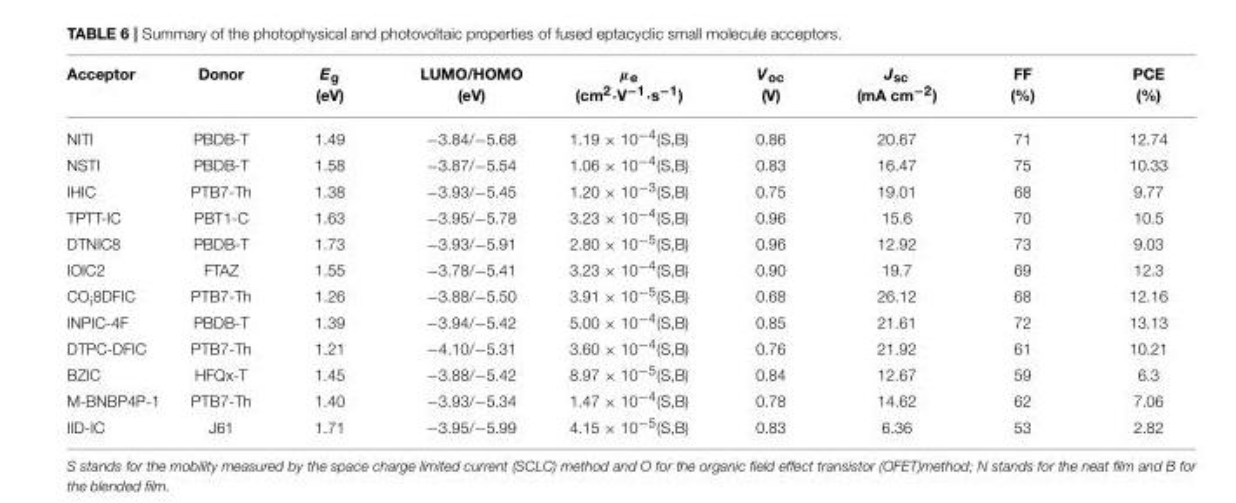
<table><thead><tr><td>Acceptor</td><td>Donor</td><td>E<sub>g</sub> (eV)</td><td>LUMO/HOMO (eV)</td><td>µ<sub>e</sub> (cm<sup>2</sup>·V<sup>−1</sup>·s<sup>−1</sup>)</td><td>V<sub>oc</sub> (V)</td><td>J<sub>sc</sub> (mA cm<sup>−2</sup>)</td><td>FF (%)</td><td>PCE (%)</td></tr></thead><tbody><tr><td>NITI</td><td>PBDB-T</td><td>1.49</td><td>−3.84/−5.68</td><td>1.19 × 10<sup>−4</sup>(S,B)</td><td>0.86</td><td>20.67</td><td>71</td><td>12.74</td></tr><tr><td>NSTI</td><td>PBDB-T</td><td>1.58</td><td>−3.87/−5.54</td><td>1.06 × 10<sup>−4</sup>(S,B)</td><td>0.83</td><td>16.47</td><td>75</td><td>10.33</td></tr><tr><td>IHIC</td><td>PTB7-Th</td><td>1.38</td><td>−3.93/−5.45</td><td>1.20 × 10<sup>−3</sup>(S,B)</td><td>0.75</td><td>19.01</td><td>68</td><td>9.77</td></tr><tr><td>TPTT-IC</td><td>PBT1-C</td><td>1.63</td><td>−3.95/−5.78</td><td>3.23 × 10<sup>−4</sup>(S,B)</td><td>0.96</td><td>15.6</td><td>70</td><td>10.5</td></tr><tr><td>DTNIC8</td><td>PBDB-T</td><td>1.73</td><td>−3.93/−5.91</td><td>2.80 × 10<sup>−5</sup>(S,B)</td><td>0.96</td><td>12.92</td><td>73</td><td>9.03</td></tr><tr><td>IOIC2</td><td>FTAZ</td><td>1.55</td><td>−3.78/−5.41</td><td>3.23 × 10<sup>−4</sup>(S,B)</td><td>0.90</td><td>19.7</td><td>69</td><td>12.3</td></tr><tr><td>CO<sub>i</sub>8DFIC</td><td>PTB7-Th</td><td>1.26</td><td>−3.88/−5.50</td><td>3.91 × 10<sup>−5</sup>(S,B)</td><td>0.68</td><td>26.12</td><td>68</td><td>12.16</td></tr><tr><td>INPIC-4F</td><td>PBDB-T</td><td>1.39</td><td>−3.94/−5.42</td><td>5.00 × 10<sup>−4</sup>(S,B)</td><td>0.85</td><td>21.61</td><td>72</td><td>13.13</td></tr><tr><td>DTPC-DFIC</td><td>PTB7-Th</td><td>1.21</td><td>−4.10/−5.31</td><td>3.60 × 10<sup>−4</sup>(S,B)</td><td>0.76</td><td>21.92</td><td>61</td><td>10.21</td></tr><tr><td>BZIC</td><td>HFQx-T</td><td>1.45</td><td>−3.88/−5.42</td><td>8.97 × 10<sup>−5</sup>(S,B)</td><td>0.84</td><td>12.67</td><td>59</td><td>6.3</td></tr><tr><td>M-BNBP4P-1</td><td>PTB7-Th</td><td>1.40</td><td>−3.93/−5.34</td><td>1.47 × 10<sup>−4</sup>(S,B)</td><td>0.78</td><td>14.62</td><td>62</td><td>7.06</td></tr><tr><td>IID-IC</td><td>J61</td><td>1.71</td><td>−3.95/−5.99</td><td>4.15 × 10<sup>−5</sup>(S,B)</td><td>0.83</td><td>6.36</td><td>53</td><td>2.82</td></tr></tbody></table>